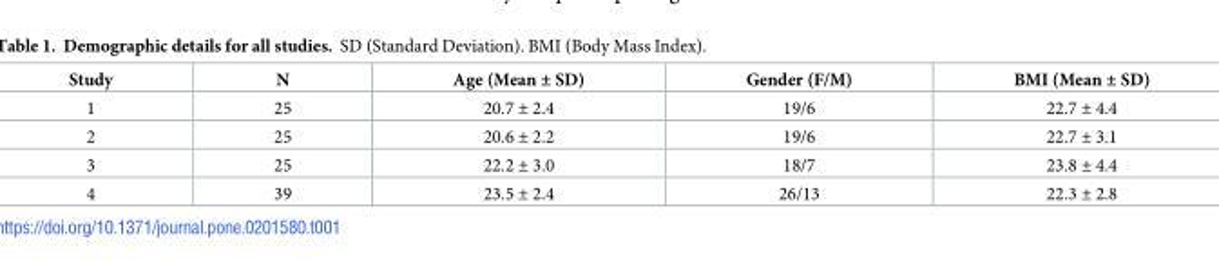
<table><thead><tr><td>Study</td><td>N</td><td>Age (Mean ± SD)</td><td>Gender (F/M)</td><td>BMI (Mean ± SD)</td></tr></thead><tbody><tr><td>1</td><td>25</td><td>20.7 ± 2.4</td><td>19/6</td><td>22.7 ± 4.4</td></tr><tr><td>2</td><td>25</td><td>20.6 ± 2.2</td><td>19/6</td><td>22.7 ± 3.1</td></tr><tr><td>3</td><td>25</td><td>22.2 ± 3.0</td><td>18/7</td><td>23.8 ± 4.4</td></tr><tr><td>4</td><td>39</td><td>23.5 ± 2.4</td><td>26/13</td><td>22.3 ± 2.8</td></tr></tbody></table>